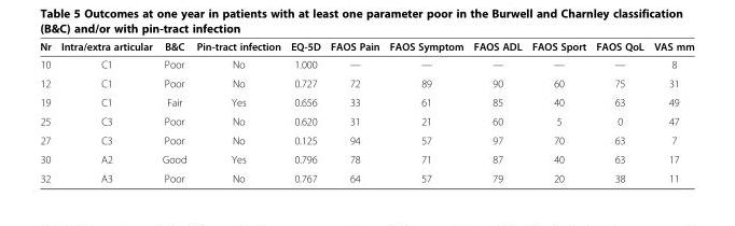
<table><thead><tr><td>Nr</td><td>Intra/extra articular</td><td>B&amp;C</td><td>Pin-tract infection</td><td>EQ-5D</td><td>FAOS Pain</td><td>FAOS Symptom</td><td>FAOS ADL</td><td>FAOS Sport</td><td>FAOS QoL</td><td>VAS mm</td></tr></thead><tbody><tr><td>10</td><td>C1</td><td>Poor</td><td>No</td><td>1.000</td><td>—</td><td>—</td><td>—</td><td>—</td><td>—</td><td>8</td></tr><tr><td>12</td><td>C1</td><td>Poor</td><td>No</td><td>0.727</td><td>72</td><td>89</td><td>90</td><td>60</td><td>75</td><td>31</td></tr><tr><td>19</td><td>C1</td><td>Fair</td><td>Yes</td><td>0.656</td><td>33</td><td>61</td><td>85</td><td>40</td><td>63</td><td>49</td></tr><tr><td>25</td><td>C3</td><td>Poor</td><td>No</td><td>0.620</td><td>31</td><td>21</td><td>60</td><td>5</td><td>0</td><td>47</td></tr><tr><td>27</td><td>C3</td><td>Poor</td><td>No</td><td>0.125</td><td>94</td><td>57</td><td>97</td><td>70</td><td>63</td><td>7</td></tr><tr><td>30</td><td>A2</td><td>Good</td><td>Yes</td><td>0.796</td><td>78</td><td>71</td><td>87</td><td>40</td><td>63</td><td>17</td></tr><tr><td>32</td><td>A3</td><td>Poor</td><td>No</td><td>0.767</td><td>64</td><td>57</td><td>79</td><td>20</td><td>38</td><td>11</td></tr></tbody></table>